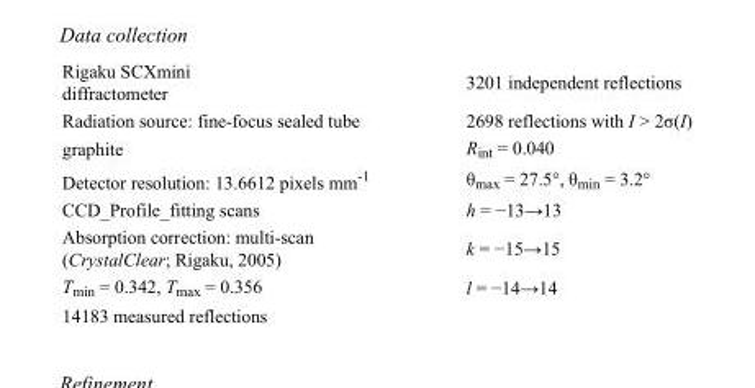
<table><tbody><tr><td>Rigaku SCXmini diffractometer</td><td>3201 independent reflections</td></tr><tr><td>Radiation source: fine-focus sealed tube</td><td>2698 reflections with I &gt; 2σ(I)</td></tr><tr><td>graphite</td><td>R<sub>int</sub> = 0.040</td></tr><tr><td>Detector resolution: 13.6612 pixels mm<sup>-1</sup></td><td>θ<sub>max</sub> = 27.5°, θ<sub>min</sub> = 3.2°</td></tr><tr><td>CCD_Profile_fitting scans</td><td>h = −13→13</td></tr><tr><td>Absorption correction: multi-scan (CrystalClear; Rigaku, 2005)</td><td>k = −15→15</td></tr><tr><td>T<sub>min</sub> = 0.342, T<sub>max</sub> = 0.356</td><td>l = −14→14</td></tr><tr><td>14183 measured reflections</td><td></td></tr></tbody></table>